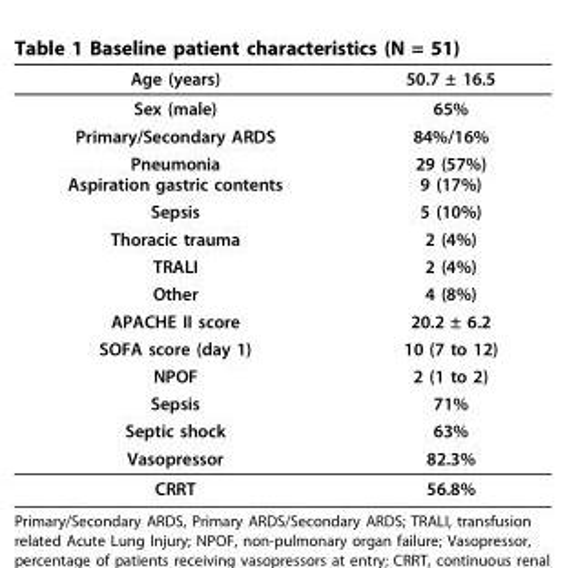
<table><thead><tr><td>Age (years)</td><td>50.7 ± 16.5</td></tr></thead><tbody><tr><td>Sex (male)</td><td>65%</td></tr><tr><td>Primary/Secondary ARDS</td><td>84%/16%</td></tr><tr><td>Pneumonia Aspiration gastric contents</td><td>29 (57%) 9 (17%)</td></tr><tr><td>Sepsis</td><td>5 (10%)</td></tr><tr><td>Thoracic trauma</td><td>2 (4%)</td></tr><tr><td>TRALI</td><td>2 (4%)</td></tr><tr><td>Other</td><td>4 (8%)</td></tr><tr><td>APACHE II score</td><td>20.2 ± 6.2</td></tr><tr><td>SOFA score (day 1)</td><td>10 (7 to 12)</td></tr><tr><td>NPOF</td><td>2 (1 to 2)</td></tr><tr><td>Sepsis</td><td>71%</td></tr><tr><td>Septic shock</td><td>63%</td></tr><tr><td>Vasopressor</td><td>82.3%</td></tr><tr><td>CRRT</td><td>56.8%</td></tr></tbody></table>